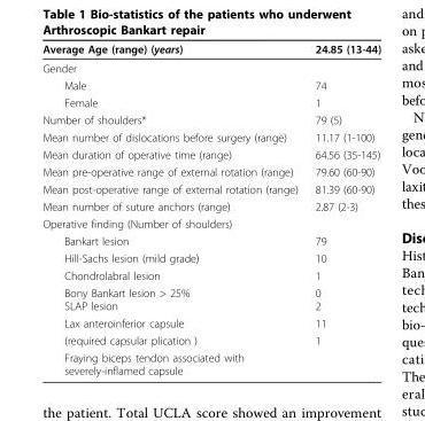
<table><thead><tr><td>Average Age (range) (years)</td><td>24.85 (13-44)</td></tr></thead><tbody><tr><td colspan="2">Gender</td></tr><tr><td>Male</td><td>74</td></tr><tr><td>Female</td><td>1</td></tr><tr><td>Number of shoulders*</td><td>79 (5)</td></tr><tr><td>Mean number of dislocations before surgery (range)</td><td>11.17 (1-100)</td></tr><tr><td>Mean duration of operative time (range)</td><td>64.56 (35-145)</td></tr><tr><td>Mean pre-operative range of external rotation (range)</td><td>79.60 (60-90)</td></tr><tr><td>Mean post-operative range of external rotation (range)</td><td>81.39 (60-90)</td></tr><tr><td>Mean number of suture anchors (range)</td><td>2.87 (2-3)</td></tr><tr><td colspan="2">Operative finding (Number of shoulders)</td></tr><tr><td>Bankart lesion</td><td>79</td></tr><tr><td>Hill-Sachs lesion (mild grade)</td><td>10</td></tr><tr><td>Chondrolabral lesion</td><td>1</td></tr><tr><td>Bony Bankart lesion &gt; 25% SLAP lesion</td><td>0 2</td></tr><tr><td>Lax anteroinferior capsule</td><td>11</td></tr><tr><td>(required capsular plication )</td><td>1</td></tr><tr><td>Fraying biceps tendon associated with severely-inflamed capsule</td><td></td></tr></tbody></table>